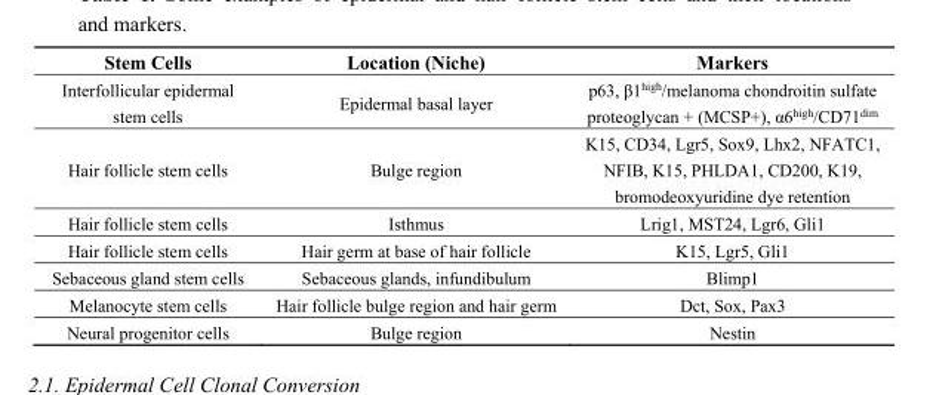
<table><thead><tr><td>Stem Cells</td><td>Location (Niche)</td><td>Markers</td></tr></thead><tbody><tr><td>Interfollicular epidermal stem cells</td><td>Epidermal basal layer</td><td>p63, β1<sup>high</sup>/melanoma chondroitin sulfate proteoglycan + (MCSP+), α6<sup>high</sup>/CD71<sup>dim</sup></td></tr><tr><td>Hair follicle stem cells</td><td>Bulge region</td><td>K15, CD34, Lgr5, Sox9, Lhx2, NFATC1, NFIB, K15, PHLDA1, CD200, K19, bromodeoxyuridine dye retention</td></tr><tr><td>Hair follicle stem cells</td><td>Isthmus</td><td>Lrig1, MST24, Lgr6, Gli1</td></tr><tr><td>Hair follicle stem cells</td><td>Hair germ at base of hair follicle</td><td>K15, Lgr5, Gli1</td></tr><tr><td>Sebaceous gland stem cells</td><td>Sebaceous glands, infundibulum</td><td>Blimp1</td></tr><tr><td>Melanocyte stem cells</td><td>Hair follicle bulge region and hair germ</td><td>Dct, Sox, Pax3</td></tr><tr><td>Neural progenitor cells</td><td>Bulge region</td><td>Nestin</td></tr></tbody></table>